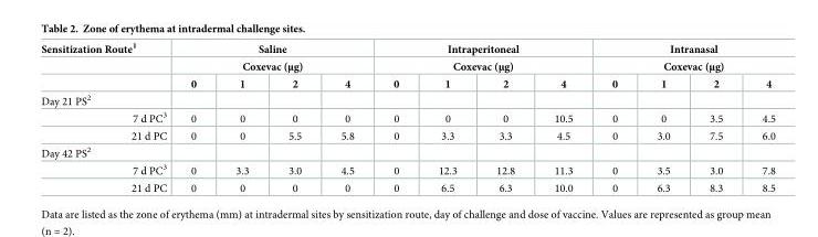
<table><thead><tr><td rowspan="3">Sensitization Route<sup>1</sup></td><td rowspan="2" colspan="4">Saline Coxevac (μg)</td><td rowspan="2" colspan="4">Intraperitoneal Coxevac (μg)</td><td rowspan="2" colspan="4">Intranasal Coxevac (μg)</td></tr><tr></tr><tr><td>0</td><td>1</td><td>2</td><td>4</td><td>0</td><td>1</td><td>2</td><td>4</td><td>0</td><td>1</td><td>2</td><td>4</td></tr></thead><tbody><tr><td colspan="13">Day 21 PS<sup>2</sup></td></tr><tr><td>7 d PC<sup>3</sup></td><td>0</td><td>0</td><td>0</td><td>0</td><td>0</td><td>0</td><td>0</td><td>10.5</td><td>0</td><td>0</td><td>3.5</td><td>4.5</td></tr><tr><td>21 d PC</td><td>0</td><td>0</td><td>5.5</td><td>5.8</td><td>0</td><td>3.3</td><td>3.3</td><td>4.5</td><td>0</td><td>3.0</td><td>7.5</td><td>6.0</td></tr><tr><td colspan="13">Day 42 PS<sup>2</sup></td></tr><tr><td>7 d PC<sup>3</sup></td><td>0</td><td>3.3</td><td>3.0</td><td>4.5</td><td>0</td><td>12.3</td><td>12.8</td><td>11.3</td><td>0</td><td>3.5</td><td>3.0</td><td>7.8</td></tr><tr><td>21 d PC</td><td>0</td><td>0</td><td>0</td><td>0</td><td>0</td><td>6.5</td><td>6.3</td><td>10.0</td><td>0</td><td>6.3</td><td>8.3</td><td>8.5</td></tr></tbody></table>